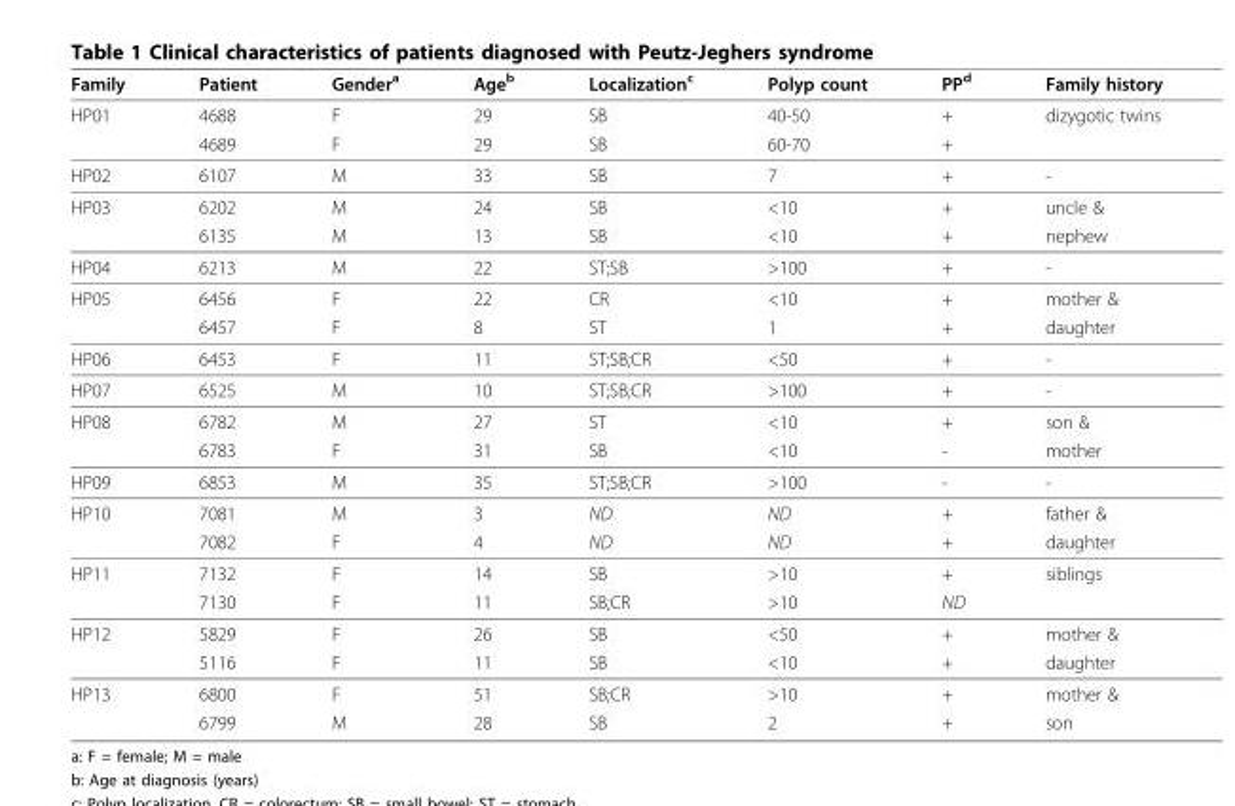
<table><thead><tr><td>Family</td><td>Patient</td><td>Gender<sup>a</sup></td><td>Age<sup>b</sup></td><td>Localization<sup>c</sup></td><td>Polyp count</td><td>PP<sup>d</sup></td><td>Family history</td></tr></thead><tbody><tr><td rowspan="2">HP01</td><td>4688</td><td>F</td><td>29</td><td>SB</td><td>40-50</td><td>+</td><td>dizygotic twins</td></tr><tr><td>4689</td><td>F</td><td>29</td><td>SB</td><td>60-70</td><td>+</td><td></td></tr><tr><td>HP02</td><td>6107</td><td>M</td><td>33</td><td>SB</td><td>7</td><td>+</td><td>-</td></tr><tr><td rowspan="2">HP03</td><td>6202</td><td>M</td><td>24</td><td>SB</td><td>&lt;10</td><td>+</td><td>uncle &amp;</td></tr><tr><td>6135</td><td>M</td><td>13</td><td>SB</td><td>&lt;10</td><td>+</td><td>nephew</td></tr><tr><td>HP04</td><td>6213</td><td>M</td><td>22</td><td>ST;SB</td><td>&gt;100</td><td>+</td><td>-</td></tr><tr><td rowspan="2">HP05</td><td>6456</td><td>F</td><td>22</td><td>CR</td><td>&lt;10</td><td>+</td><td>mother &amp;</td></tr><tr><td>6457</td><td>F</td><td>8</td><td>ST</td><td>1</td><td>+</td><td>daughter</td></tr><tr><td>HP06</td><td>6453</td><td>F</td><td>11</td><td>ST;SB;CR</td><td>&lt;50</td><td>+</td><td>-</td></tr><tr><td>HP07</td><td>6525</td><td>M</td><td>10</td><td>ST;SB;CR</td><td>&gt;100</td><td>+</td><td>-</td></tr><tr><td rowspan="2">HP08</td><td>6782</td><td>M</td><td>27</td><td>ST</td><td>&lt;10</td><td>+</td><td>son &amp;</td></tr><tr><td>6783</td><td>F</td><td>31</td><td>SB</td><td>&lt;10</td><td>-</td><td>mother</td></tr><tr><td>HP09</td><td>6853</td><td>M</td><td>35</td><td>ST;SB;CR</td><td>&gt;100</td><td>-</td><td>-</td></tr><tr><td rowspan="2">HP10</td><td>7081</td><td>M</td><td>3</td><td>ND</td><td>ND</td><td>+</td><td>father &amp;</td></tr><tr><td>7082</td><td>F</td><td>4</td><td>ND</td><td>ND</td><td>+</td><td>daughter</td></tr><tr><td rowspan="2">HP11</td><td>7132</td><td>F</td><td>14</td><td>SB</td><td>&gt;10</td><td>+</td><td>siblings</td></tr><tr><td>7130</td><td>F</td><td>11</td><td>SB;CR</td><td>&gt;10</td><td>ND</td><td></td></tr><tr><td rowspan="2">HP12</td><td>5829</td><td>F</td><td>26</td><td>SB</td><td>&lt;50</td><td>+</td><td>mother &amp;</td></tr><tr><td>5116</td><td>F</td><td>11</td><td>SB</td><td>&lt;10</td><td>+</td><td>daughter</td></tr><tr><td rowspan="2">HP13</td><td>6800</td><td>F</td><td>51</td><td>SB;CR</td><td>&gt;10</td><td>+</td><td>mother &amp;</td></tr><tr><td>6799</td><td>M</td><td>28</td><td>SB</td><td>2</td><td>+</td><td>son</td></tr></tbody></table>